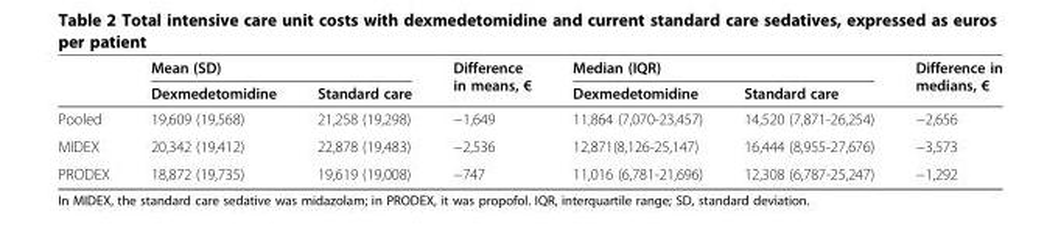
<table><thead><tr><td rowspan="2"></td><td colspan="2">Mean (SD)</td><td rowspan="2">Difference in means, €</td><td colspan="2">Median (IQR)</td><td rowspan="2">Difference in medians, €</td></tr><tr><td>Dexmedetomidine</td><td>Standard care</td><td>Dexmedetomidine</td><td>Standard care</td></tr></thead><tbody><tr><td>Pooled</td><td>19,609 (19,568)</td><td>21,258 (19,298)</td><td>−1,649</td><td>11,864 (7,070-23,457)</td><td>14,520 (7,871-26,254)</td><td>−2,656</td></tr><tr><td>MIDEX</td><td>20,342 (19,412)</td><td>22,878 (19,483)</td><td>−2,536</td><td>12,871(8,126-25,147)</td><td>16,444 (8,955-27,676)</td><td>−3,573</td></tr><tr><td>PRODEX</td><td>18,872 (19,735)</td><td>19,619 (19,008)</td><td>−747</td><td>11,016 (6,781-21,696)</td><td>12,308 (6,787-25,247)</td><td>−1,292</td></tr></tbody></table>